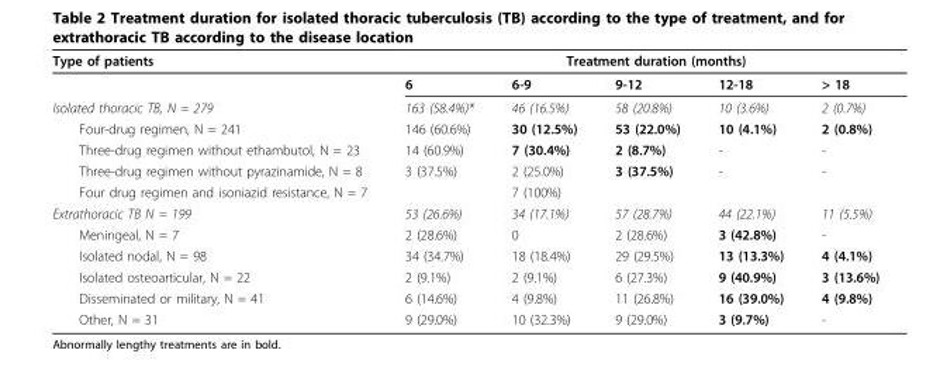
<table><thead><tr><td rowspan="2">Type of patients</td><td colspan="5">Treatment duration (months)</td></tr><tr><td>6</td><td>6-9</td><td>9-12</td><td>12-18</td><td>&gt; 18</td></tr></thead><tbody><tr><td>Isolated thoracic TB, N = 279</td><td>163 (58.4%)*</td><td>46 (16.5%)</td><td>58 (20.8%)</td><td>10 (3.6%)</td><td>2 (0.7%)</td></tr><tr><td>Four-drug regimen, N = 241</td><td>146 (60.6%)</td><td>30 (12.5%)</td><td>53 (22.0%)</td><td>10 (4.1%)</td><td>2 (0.8%)</td></tr><tr><td>Three-drug regimen without ethambutol, N = 23</td><td>14 (60.9%)</td><td>7 (30.4%)</td><td>2 (8.7%)</td><td>-</td><td>-</td></tr><tr><td>Three-drug regimen without pyrazinamide, N = 8</td><td>3 (37.5%)</td><td>2 (25.0%)</td><td>3 (37.5%)</td><td>-</td><td>-</td></tr><tr><td>Four drug regimen and isoniazid resistance, N = 7</td><td></td><td>7 (100%)</td><td></td><td></td><td></td></tr><tr><td>Extrathoracic TB N = 199</td><td>53 (26.6%)</td><td>34 (17.1%)</td><td>57 (28.7%)</td><td>44 (22.1%)</td><td>11 (5.5%)</td></tr><tr><td>Meningeal, N = 7</td><td>2 (28.6%)</td><td>0</td><td>2 (28.6%)</td><td>3 (42.8%)</td><td>-</td></tr><tr><td>Isolated nodal, N = 98</td><td>34 (34.7%)</td><td>18 (18.4%)</td><td>29 (29.5%)</td><td>13 (13.3%)</td><td>4 (4.1%)</td></tr><tr><td>Isolated osteoarticular, N = 22</td><td>2 (9.1%)</td><td>2 (9.1%)</td><td>6 (27.3%)</td><td>9 (40.9%)</td><td>3 (13.6%)</td></tr><tr><td>Disseminated or military, N = 41</td><td>6 (14.6%)</td><td>4 (9.8%)</td><td>11 (26.8%)</td><td>16 (39.0%)</td><td>4 (9.8%)</td></tr><tr><td>Other, N = 31</td><td>9 (29.0%)</td><td>10 (32.3%)</td><td>9 (29.0%)</td><td>3 (9.7%)</td><td>-</td></tr></tbody></table>